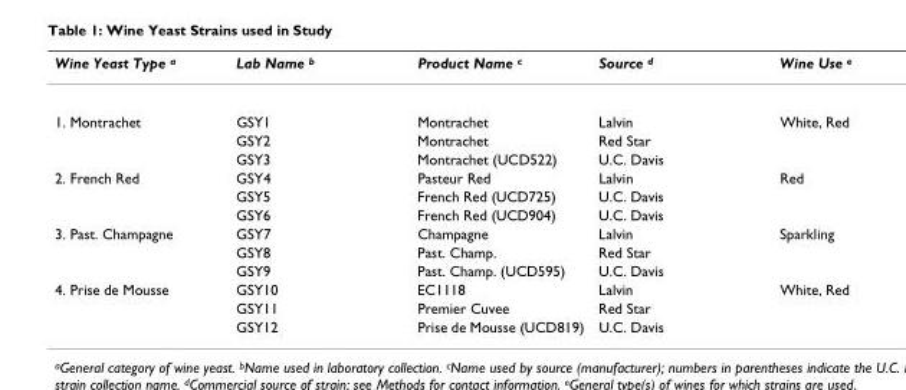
<table><thead><tr><td>Wine Yeast Type <sup>a</sup></td><td>Lab Name <sup>b</sup></td><td>Product Name <sup>c</sup></td><td>Source <sup>d</sup></td><td>Wine Use <sup>e</sup></td></tr></thead><tbody><tr><td rowspan="3">1. Montrachet</td><td>GSY1</td><td>Montrachet</td><td>Lalvin</td><td>White, Red</td></tr><tr><td>GSY2</td><td>Montrachet</td><td>Red Star</td><td></td></tr><tr><td>GSY3</td><td>Montrachet (UCD522)</td><td>U.C. Davis</td><td></td></tr><tr><td rowspan="3">2. French Red</td><td>GSY4</td><td>Pasteur Red</td><td>Lalvin</td><td>Red</td></tr><tr><td>GSY5</td><td>French Red (UCD725)</td><td>U.C. Davis</td><td></td></tr><tr><td>GSY6</td><td>French Red (UCD904)</td><td>U.C. Davis</td><td></td></tr><tr><td rowspan="3">3. Past. Champagne</td><td>GSY7</td><td>Champagne</td><td>Lalvin</td><td>Sparkling</td></tr><tr><td>GSY8</td><td>Past. Champ.</td><td>Red Star</td><td></td></tr><tr><td>GSY9</td><td>Past. Champ. (UCD595)</td><td>U.C. Davis</td><td></td></tr><tr><td rowspan="3">4. Prise de Mousse</td><td>GSY10</td><td>EC1118</td><td>Lalvin</td><td>White, Red</td></tr><tr><td>GSY11</td><td>Premier Cuvee</td><td>Red Star</td><td></td></tr><tr><td>GSY12</td><td>Prise de Mousse (UCD819)</td><td>U.C. Davis</td><td></td></tr></tbody></table>